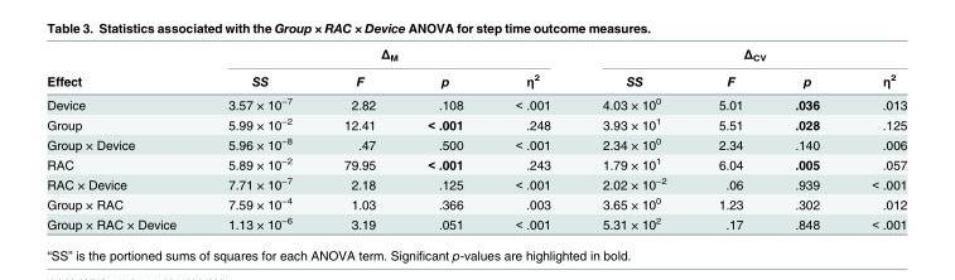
<table><thead><tr><td rowspan="2">Effect</td><td colspan="4">Δ<sub>M</sub></td><td colspan="4">Δ<sub>CV</sub></td></tr><tr><td>SS</td><td>F</td><td>p</td><td>η<sup>2</sup></td><td>SS</td><td>F</td><td>p</td><td>η<sup>2</sup></td></tr></thead><tbody><tr><td>Device</td><td>3.57 × 10<sup>−7</sup></td><td>2.82</td><td>.108</td><td>&lt; .001</td><td>4.03 × 10<sup>0</sup></td><td>5.01</td><td>.036</td><td>.013</td></tr><tr><td>Group</td><td>5.99 × 10<sup>−2</sup></td><td>12.41</td><td>&lt; .001</td><td>.248</td><td>3.93 × 10<sup>1</sup></td><td>5.51</td><td>.028</td><td>.125</td></tr><tr><td>Group × Device</td><td>5.96 × 10<sup>−8</sup></td><td>.47</td><td>.500</td><td>&lt; .001</td><td>2.34 × 10<sup>0</sup></td><td>2.34</td><td>.140</td><td>.006</td></tr><tr><td>RAC</td><td>5.89 × 10<sup>−2</sup></td><td>79.95</td><td>&lt; .001</td><td>.243</td><td>1.79 × 10<sup>1</sup></td><td>6.04</td><td>.005</td><td>.057</td></tr><tr><td>RAC × Device</td><td>7.71 × 10<sup>−7</sup></td><td>2.18</td><td>.125</td><td>&lt; .001</td><td>2.02 × 10<sup>−2</sup></td><td>.06</td><td>.939</td><td>&lt; .001</td></tr><tr><td>Group × RAC</td><td>7.59 × 10<sup>−4</sup></td><td>1.03</td><td>.366</td><td>.003</td><td>3.65 × 10<sup>0</sup></td><td>1.23</td><td>.302</td><td>.012</td></tr><tr><td>Group × RAC × Device</td><td>1.13 × 10<sup>−6</sup></td><td>3.19</td><td>.051</td><td>&lt; .001</td><td>5.31 × 10<sup>2</sup></td><td>.17</td><td>.848</td><td>&lt; .001</td></tr></tbody></table>